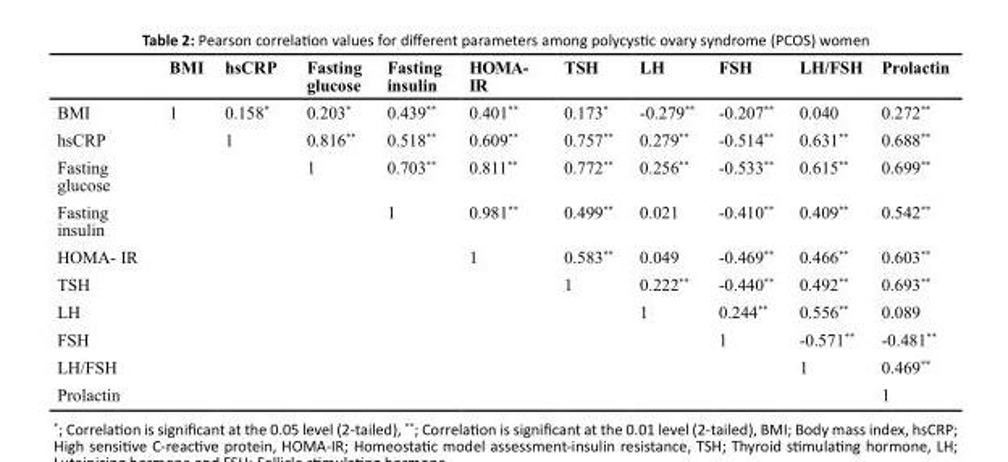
<table><thead><tr><td></td><td>BMI</td><td>hsCRP</td><td>Fasting glucose</td><td>Fasting insulin</td><td>HOMA- IR</td><td>TSH</td><td>LH</td><td>FSH</td><td>LH/FSH</td><td>Prolactin</td></tr></thead><tbody><tr><td>BMI</td><td>1</td><td>0.158*</td><td>0.203*</td><td>0.439**</td><td>0.401**</td><td>0.173*</td><td>-0.279**</td><td>-0.207**</td><td>0.040</td><td>0.272**</td></tr><tr><td>hsCRP</td><td></td><td>1</td><td>0.816**</td><td>0.518**</td><td>0.609**</td><td>0.757**</td><td>0.279**</td><td>-0.514**</td><td>0.631**</td><td>0.688**</td></tr><tr><td>Fasting glucose</td><td></td><td></td><td>1</td><td>0.703**</td><td>0.811**</td><td>0.772**</td><td>0.256**</td><td>-0.533**</td><td>0.615**</td><td>0.699**</td></tr><tr><td>Fasting insulin</td><td></td><td></td><td></td><td>1</td><td>0.981**</td><td>0.499**</td><td>0.021</td><td>-0.410**</td><td>0.409**</td><td>0.542**</td></tr><tr><td>HOMA- IR</td><td></td><td></td><td></td><td></td><td>1</td><td>0.583**</td><td>0.049</td><td>-0.469**</td><td>0.466**</td><td>0.603**</td></tr><tr><td>TSH</td><td></td><td></td><td></td><td></td><td></td><td>1</td><td>0.222**</td><td>-0.440**</td><td>0.492**</td><td>0.693**</td></tr><tr><td>LH</td><td></td><td></td><td></td><td></td><td></td><td></td><td>1</td><td>0.244**</td><td>0.556**</td><td>0.089</td></tr><tr><td>FSH</td><td></td><td></td><td></td><td></td><td></td><td></td><td></td><td>1</td><td>-0.571**</td><td>-0.481**</td></tr><tr><td>LH/FSH</td><td></td><td></td><td></td><td></td><td></td><td></td><td></td><td></td><td>1</td><td>0.469**</td></tr><tr><td>Prolactin</td><td></td><td></td><td></td><td></td><td></td><td></td><td></td><td></td><td></td><td>1</td></tr></tbody></table>